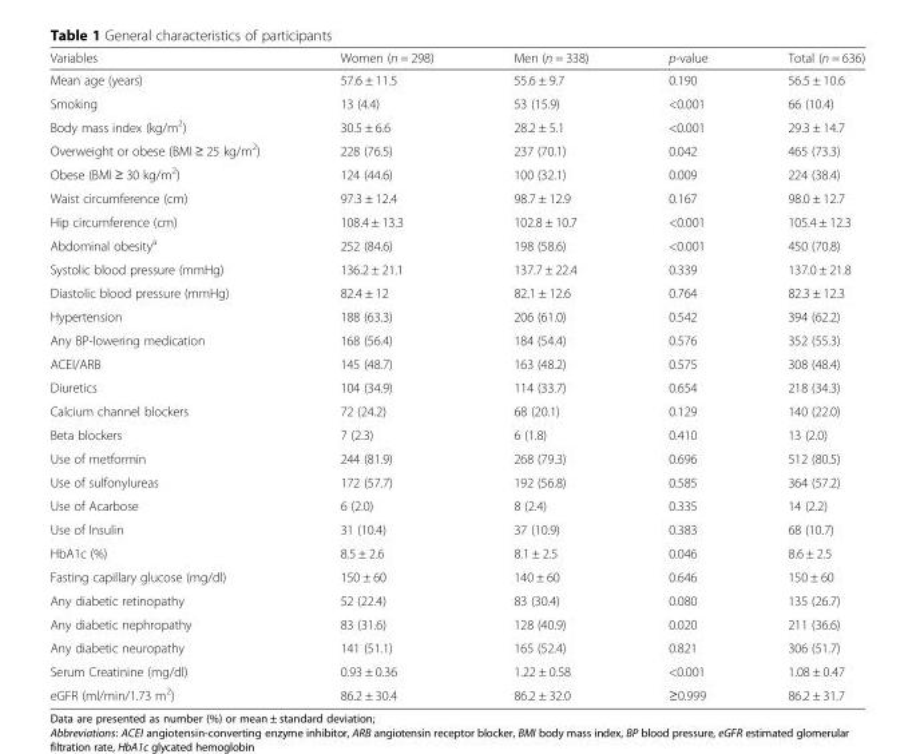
<table><thead><tr><td>Variables</td><td>Women (n = 298)</td><td>Men (n = 338)</td><td>p-value</td><td>Total (n = 636)</td></tr></thead><tbody><tr><td>Mean age (years)</td><td>57.6 ± 11.5</td><td>55.6 ± 9.7</td><td>0.190</td><td>56.5 ± 10.6</td></tr><tr><td>Smoking</td><td>13 (4.4)</td><td>53 (15.9)</td><td>&lt;0.001</td><td>66 (10.4)</td></tr><tr><td>Body mass index (kg/m<sup>2</sup>)</td><td>30.5 ± 6.6</td><td>28.2 ± 5.1</td><td>&lt;0.001</td><td>29.3 ± 14.7</td></tr><tr><td>Overweight or obese (BMI ≥ 25 kg/m<sup>2</sup>)</td><td>228 (76.5)</td><td>237 (70.1)</td><td>0.042</td><td>465 (73.3)</td></tr><tr><td>Obese (BMI ≥ 30 kg/m<sup>2</sup>)</td><td>124 (44.6)</td><td>100 (32.1)</td><td>0.009</td><td>224 (38.4)</td></tr><tr><td>Waist circumference (cm)</td><td>97.3 ± 12.4</td><td>98.7 ± 12.9</td><td>0.167</td><td>98.0 ± 12.7</td></tr><tr><td>Hip circumference (cm)</td><td>108.4 ± 13.3</td><td>102.8 ± 10.7</td><td>&lt;0.001</td><td>105.4 ± 12.3</td></tr><tr><td>Abdominal obesity<sup>a</sup></td><td>252 (84.6)</td><td>198 (58.6)</td><td>&lt;0.001</td><td>450 (70.8)</td></tr><tr><td>Systolic blood pressure (mmHg)</td><td>136.2 ± 21.1</td><td>137.7 ± 22.4</td><td>0.339</td><td>137.0 ± 21.8</td></tr><tr><td>Diastolic blood pressure (mmHg)</td><td>82.4 ± 12</td><td>82.1 ± 12.6</td><td>0.764</td><td>82.3 ± 12.3</td></tr><tr><td>Hypertension</td><td>188 (63.3)</td><td>206 (61.0)</td><td>0.542</td><td>394 (62.2)</td></tr><tr><td>Any BP-lowering medication</td><td>168 (56.4)</td><td>184 (54.4)</td><td>0.576</td><td>352 (55.3)</td></tr><tr><td>ACEI/ARB</td><td>145 (48.7)</td><td>163 (48.2)</td><td>0.575</td><td>308 (48.4)</td></tr><tr><td>Diuretics</td><td>104 (34.9)</td><td>114 (33.7)</td><td>0.654</td><td>218 (34.3)</td></tr><tr><td>Calcium channel blockers</td><td>72 (24.2)</td><td>68 (20.1)</td><td>0.129</td><td>140 (22.0)</td></tr><tr><td>Beta blockers</td><td>7 (2.3)</td><td>6 (1.8)</td><td>0.410</td><td>13 (2.0)</td></tr><tr><td>Use of metformin</td><td>244 (81.9)</td><td>268 (79.3)</td><td>0.696</td><td>512 (80.5)</td></tr><tr><td>Use of sulfonylureas</td><td>172 (57.7)</td><td>192 (56.8)</td><td>0.585</td><td>364 (57.2)</td></tr><tr><td>Use of Acarbose</td><td>6 (2.0)</td><td>8 (2.4)</td><td>0.335</td><td>14 (2.2)</td></tr><tr><td>Use of Insulin</td><td>31 (10.4)</td><td>37 (10.9)</td><td>0.383</td><td>68 (10.7)</td></tr><tr><td>HbA1c (%)</td><td>8.5 ± 2.6</td><td>8.1 ± 2.5</td><td>0.046</td><td>8.6 ± 2.5</td></tr><tr><td>Fasting capillary glucose (mg/dl)</td><td>150 ± 60</td><td>140 ± 60</td><td>0.646</td><td>150 ± 60</td></tr><tr><td>Any diabetic retinopathy</td><td>52 (22.4)</td><td>83 (30.4)</td><td>0.080</td><td>135 (26.7)</td></tr><tr><td>Any diabetic nephropathy</td><td>83 (31.6)</td><td>128 (40.9)</td><td>0.020</td><td>211 (36.6)</td></tr><tr><td>Any diabetic neuropathy</td><td>141 (51.1)</td><td>165 (52.4)</td><td>0.821</td><td>306 (51.7)</td></tr><tr><td>Serum Creatinine (mg/dl)</td><td>0.93 ± 0.36</td><td>1.22 ± 0.58</td><td>&lt;0.001</td><td>1.08 ± 0.47</td></tr><tr><td>eGFR (ml/min/1.73 m<sup>2</sup>)</td><td>86.2 ± 30.4</td><td>86.2 ± 32.0</td><td>≥0.999</td><td>86.2 ± 31.7</td></tr></tbody></table>